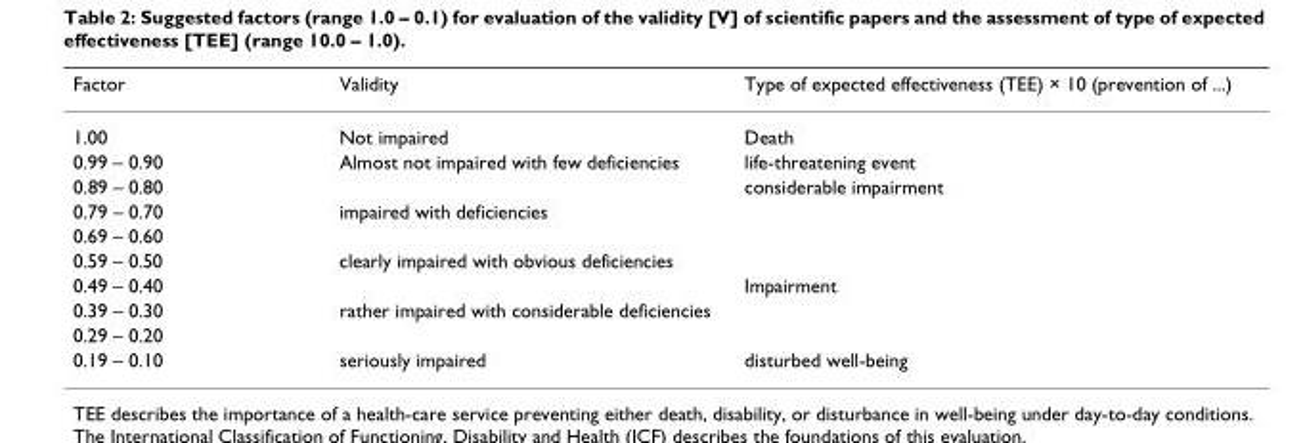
<table><thead><tr><td>Factor</td><td>Validity</td><td>Type of expected effectiveness (TEE) × 10 (prevention of ...)</td></tr></thead><tbody><tr><td>1.00</td><td>Not impaired</td><td>Death</td></tr><tr><td>0.99 – 0.90</td><td>Almost not impaired with few deficiencies</td><td>life-threatening event</td></tr><tr><td>0.89 – 0.80</td><td></td><td>considerable impairment</td></tr><tr><td>0.79 – 0.70</td><td>impaired with deficiencies</td><td></td></tr><tr><td colspan="3">0.69 – 0.60</td></tr><tr><td>0.59 – 0.50</td><td>clearly impaired with obvious deficiencies</td><td></td></tr><tr><td>0.49 – 0.40</td><td></td><td>Impairment</td></tr><tr><td>0.39 – 0.30</td><td>rather impaired with considerable deficiencies</td><td></td></tr><tr><td colspan="3">0.29 – 0.20</td></tr><tr><td>0.19 – 0.10</td><td>seriously impaired</td><td>disturbed well-being</td></tr></tbody></table>